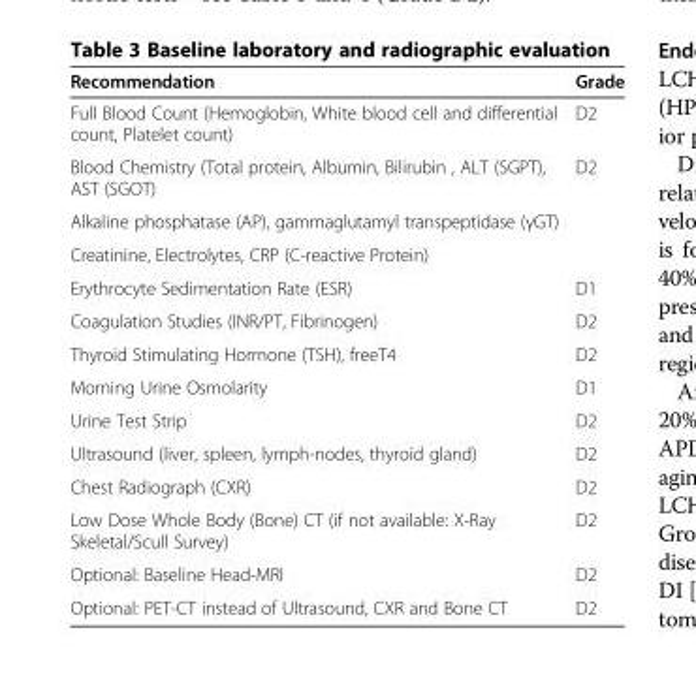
<table><thead><tr><td>Recommendation</td><td>Grade</td></tr></thead><tbody><tr><td>Full Blood Count (Hemoglobin, White blood cell and differential count, Platelet count)</td><td>D2</td></tr><tr><td>Blood Chemistry (Total protein, Albumin, Bilirubin , ALT (SGPT), AST (SGOT)</td><td>D2</td></tr><tr><td colspan="2">Alkaline phosphatase (AP), gammaglutamyl transpeptidase (γGT)</td></tr><tr><td colspan="2">Creatinine, Electrolytes, CRP (C-reactive Protein)</td></tr><tr><td>Erythrocyte Sedimentation Rate (ESR)</td><td>D1</td></tr><tr><td>Coagulation Studies (INR/PT, Fibrinogen)</td><td>D2</td></tr><tr><td>Thyroid Stimulating Hormone (TSH), freeT4</td><td>D2</td></tr><tr><td>Morning Urine Osmolarity</td><td>D1</td></tr><tr><td>Urine Test Strip</td><td>D2</td></tr><tr><td>Ultrasound (liver, spleen, lymph-nodes, thyroid gland)</td><td>D2</td></tr><tr><td>Chest Radiograph (CXR)</td><td>D2</td></tr><tr><td>Low Dose Whole Body (Bone) CT (if not available: X-Ray Skeletal/Scull Survey)</td><td>D2</td></tr><tr><td>Optional: Baseline Head-MRI</td><td>D2</td></tr><tr><td>Optional: PET-CT instead of Ultrasound, CXR and Bone CT</td><td>D2</td></tr></tbody></table>